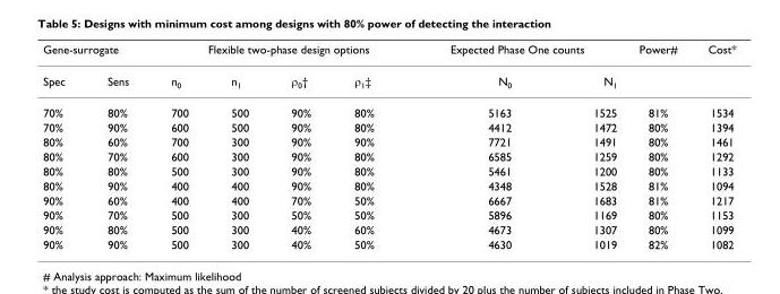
<table><thead><tr><td colspan="2">Gene-surrogate</td><td colspan="4">Flexible two-phase design options</td><td colspan="2">Expected Phase One counts</td><td rowspan="2">Power#</td><td rowspan="2">Cost*</td></tr><tr><td>Spec</td><td>Sens</td><td>n<sub>0</sub></td><td>n<sub>1</sub></td><td>ρ<sub>0</sub>†</td><td>ρ<sub>1</sub>‡</td><td>N<sub>0</sub></td><td>N<sub>1</sub></td></tr></thead><tbody><tr><td>70%</td><td>80%</td><td>700</td><td>500</td><td>90%</td><td>80%</td><td>5163</td><td>1525</td><td>81%</td><td>1534</td></tr><tr><td>70%</td><td>90%</td><td>600</td><td>500</td><td>90%</td><td>80%</td><td>4412</td><td>1472</td><td>80%</td><td>1394</td></tr><tr><td>80%</td><td>60%</td><td>700</td><td>300</td><td>90%</td><td>90%</td><td>7721</td><td>1491</td><td>80%</td><td>1461</td></tr><tr><td>80%</td><td>70%</td><td>600</td><td>300</td><td>90%</td><td>80%</td><td>6585</td><td>1259</td><td>80%</td><td>1292</td></tr><tr><td>80%</td><td>80%</td><td>500</td><td>300</td><td>90%</td><td>80%</td><td>5461</td><td>1200</td><td>80%</td><td>1133</td></tr><tr><td>80%</td><td>90%</td><td>400</td><td>400</td><td>90%</td><td>80%</td><td>4348</td><td>1528</td><td>81%</td><td>1094</td></tr><tr><td>90%</td><td>60%</td><td>400</td><td>400</td><td>70%</td><td>50%</td><td>6667</td><td>1683</td><td>81%</td><td>1217</td></tr><tr><td>90%</td><td>70%</td><td>500</td><td>300</td><td>50%</td><td>50%</td><td>5896</td><td>1169</td><td>80%</td><td>1153</td></tr><tr><td>90%</td><td>80%</td><td>500</td><td>300</td><td>40%</td><td>60%</td><td>4673</td><td>1307</td><td>80%</td><td>1099</td></tr><tr><td>90%</td><td>90%</td><td>500</td><td>300</td><td>40%</td><td>50%</td><td>4630</td><td>1019</td><td>82%</td><td>1082</td></tr></tbody></table>